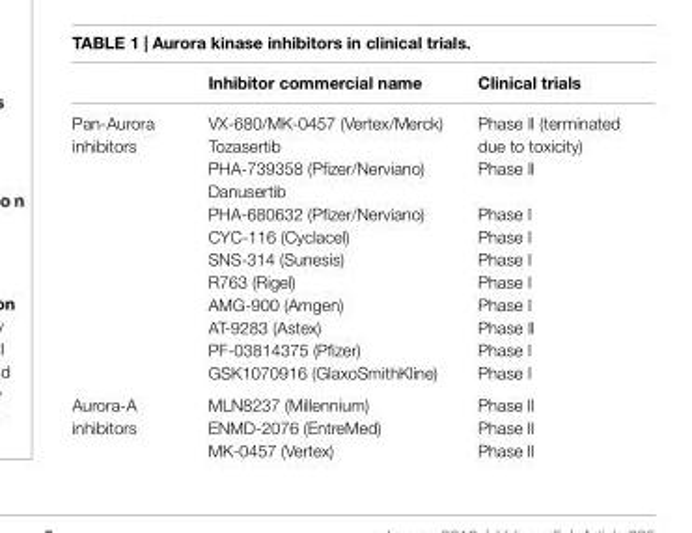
<table><thead><tr><td></td><td>inhibitor commercial name</td><td>Clinical trials</td></tr></thead><tbody><tr><td rowspan="10">Pan-Aurora inhibitors</td><td>VX-680/MK-0457 (Vertex/Merck) Tozasertib</td><td>Phase II (terminated due to toxicity)</td></tr><tr><td>PHA-739358 (Pfizer/Nerviano) Danusertib</td><td>Phase II</td></tr><tr><td>PHA-680632 (Pfizer/Nerviano)</td><td>Phase I</td></tr><tr><td>CYC-116 (Cyclacel)</td><td>Phase I</td></tr><tr><td>SNS-314 (Sunesis)</td><td>Phase I</td></tr><tr><td>R763 (Rigel)</td><td>Phase I</td></tr><tr><td>AMG-900 (Amgen)</td><td>Phase I</td></tr><tr><td>AT-9283 (Astex)</td><td>Phase II</td></tr><tr><td>PF-03814375 (Pfizer)</td><td>Phase I</td></tr><tr><td>GSK1070916 (GlaxoSmithKline)</td><td>Phase I</td></tr><tr><td rowspan="3">Aurora-A inhibitors</td><td>MLN8237 (Millennium)</td><td>Phase II</td></tr><tr><td>ENMD-2076 (EntreMed)</td><td>Phase II</td></tr><tr><td>MK-0457 (Vertex)</td><td>Phase II</td></tr></tbody></table>